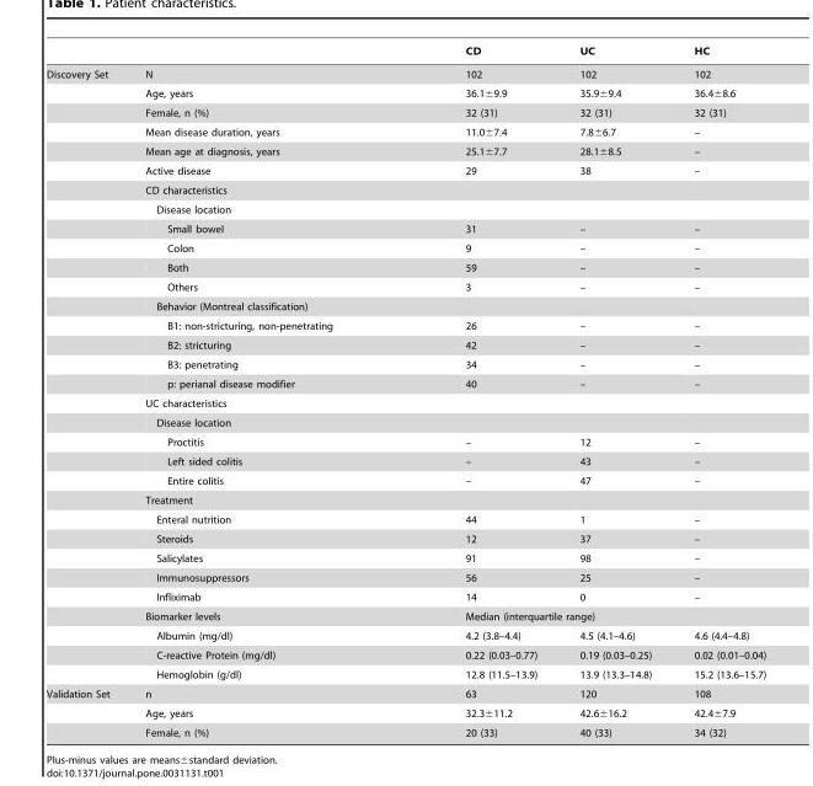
<table><thead><tr><td></td><td></td><td>CD</td><td>UC</td><td>HC</td></tr></thead><tbody><tr><td rowspan="32">Discovery Set</td><td>N</td><td>102</td><td>102</td><td>102</td></tr><tr><td>Age, years</td><td>36.1±9.9</td><td>35.9±9.4</td><td>36.4±8.6</td></tr><tr><td>Female, n (%)</td><td>32 (31)</td><td>32 (31)</td><td>32 (31)</td></tr><tr><td>Mean disease duration, years</td><td>11.0±7.4</td><td>7.8±6.7</td><td>–</td></tr><tr><td>Mean age at diagnosis, years</td><td>25.1±7.7</td><td>28.1±8.5</td><td>–</td></tr><tr><td>Active disease</td><td>29</td><td>38</td><td>–</td></tr><tr><td>CD characteristics</td><td></td><td></td><td></td></tr><tr><td>Disease location</td><td></td><td></td><td></td></tr><tr><td>Small bowel</td><td>31</td><td>–</td><td>–</td></tr><tr><td>Colon</td><td>9</td><td>–</td><td>–</td></tr><tr><td>Both</td><td>59</td><td>–</td><td>–</td></tr><tr><td>Others</td><td>3</td><td>–</td><td>–</td></tr><tr><td>Behavior (Montreal classification)</td><td></td><td></td><td></td></tr><tr><td>B1: non-stricturing, non-penetrating</td><td>26</td><td>–</td><td>–</td></tr><tr><td>B2: stricturing</td><td>42</td><td>–</td><td>–</td></tr><tr><td>B3: penetrating</td><td>34</td><td>–</td><td>–</td></tr><tr><td>p: perianal disease modifier</td><td>40</td><td>–</td><td>–</td></tr><tr><td>UC characteristics</td><td></td><td></td><td></td></tr><tr><td>Disease location</td><td></td><td></td><td></td></tr><tr><td>Proctitis</td><td>–</td><td>12</td><td>–</td></tr><tr><td>Left sided colitis</td><td>–</td><td>43</td><td>–</td></tr><tr><td>Entire colitis</td><td>–</td><td>47</td><td>–</td></tr><tr><td>Treatment</td><td></td><td></td><td></td></tr><tr><td>Enteral nutrition</td><td>44</td><td>1</td><td>–</td></tr><tr><td>Steroids</td><td>12</td><td>37</td><td>–</td></tr><tr><td>Salicylates</td><td>91</td><td>98</td><td>–</td></tr><tr><td>Immunosuppressors</td><td>56</td><td>25</td><td>–</td></tr><tr><td>Infliximab</td><td>14</td><td>0</td><td>–</td></tr><tr><td>Biomarker levels</td><td colspan="3">Median (interquartile range)</td></tr><tr><td>Albumin (mg/dl)</td><td>4.2 (3.8–4.4)</td><td>4.5 (4.1–4.6)</td><td>4.6 (4.4–4.8)</td></tr><tr><td>C-reactive Protein (mg/dl)</td><td>0.22 (0.03–0.77)</td><td>0.19 (0.03–0.25)</td><td>0.02 (0.01–0.04)</td></tr><tr><td>Hemoglobin (g/dl)</td><td>12.8 (11.5–13.9)</td><td>13.9 (13.3–14.8)</td><td>15.2 (13.6–15.7)</td></tr><tr><td rowspan="3">Validation Set</td><td>n</td><td>63</td><td>120</td><td>108</td></tr><tr><td>Age, years</td><td>32.3±11.2</td><td>42.6±16.2</td><td>42.4±7.9</td></tr><tr><td>Female, n (%)</td><td>20 (33)</td><td>40 (33)</td><td>34 (32)</td></tr></tbody></table>